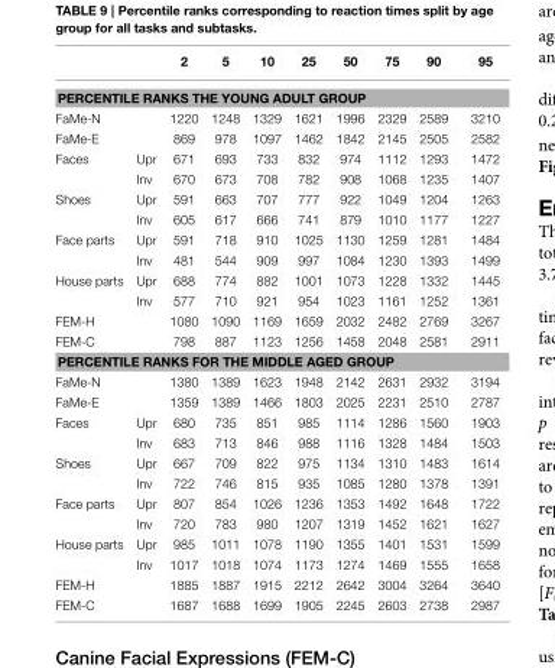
<table><thead><tr><td></td><td></td><td>2</td><td>5</td><td>10</td><td>25</td><td>50</td><td>75</td><td>90</td><td>95</td></tr></thead><tbody><tr><td colspan="10">PERCENTILE RANKS THE YOUNG ADULT GROUP</td></tr><tr><td>FaMe-N</td><td></td><td>1220</td><td>1248</td><td>1329</td><td>1621</td><td>1996</td><td>2329</td><td>2589</td><td>3210</td></tr><tr><td>FaMe-E</td><td></td><td>869</td><td>978</td><td>1097</td><td>1462</td><td>1842</td><td>2145</td><td>2505</td><td>2582</td></tr><tr><td rowspan="2">Faces</td><td>Upr</td><td>671</td><td>693</td><td>733</td><td>832</td><td>974</td><td>1112</td><td>1293</td><td>1472</td></tr><tr><td>Inv</td><td>670</td><td>673</td><td>708</td><td>782</td><td>908</td><td>1068</td><td>1235</td><td>1407</td></tr><tr><td rowspan="2">Shoes</td><td>Upr</td><td>591</td><td>663</td><td>707</td><td>777</td><td>922</td><td>1049</td><td>1204</td><td>1263</td></tr><tr><td>Inv</td><td>605</td><td>617</td><td>666</td><td>741</td><td>879</td><td>1010</td><td>1177</td><td>1227</td></tr><tr><td rowspan="2">Face parts</td><td>Upr</td><td>591</td><td>718</td><td>910</td><td>1025</td><td>1130</td><td>1259</td><td>1281</td><td>1484</td></tr><tr><td>Inv</td><td>481</td><td>544</td><td>909</td><td>997</td><td>1084</td><td>1230</td><td>1393</td><td>1499</td></tr><tr><td rowspan="2">House parts</td><td>Upr</td><td>688</td><td>774</td><td>882</td><td>1001</td><td>1073</td><td>1228</td><td>1332</td><td>1445</td></tr><tr><td>Inv</td><td>577</td><td>710</td><td>921</td><td>954</td><td>1023</td><td>1161</td><td>1252</td><td>1361</td></tr><tr><td>FEM-H</td><td></td><td>1080</td><td>1090</td><td>1169</td><td>1659</td><td>2032</td><td>2482</td><td>2769</td><td>3267</td></tr><tr><td>FEM-C</td><td></td><td>798</td><td>887</td><td>1123</td><td>1256</td><td>1458</td><td>2048</td><td>2581</td><td>2911</td></tr><tr><td colspan="10">PERCENTILE RANKS FOR THE MIDDLE AGED GROUP</td></tr><tr><td>FaMe-N</td><td></td><td>1380</td><td>1389</td><td>1623</td><td>1948</td><td>2142</td><td>2631</td><td>2932</td><td>3194</td></tr><tr><td>FaMe-E</td><td></td><td>1359</td><td>1389</td><td>1466</td><td>1803</td><td>2025</td><td>2231</td><td>2510</td><td>2787</td></tr><tr><td rowspan="2">Faces</td><td>Upr</td><td>680</td><td>735</td><td>851</td><td>985</td><td>1114</td><td>1286</td><td>1560</td><td>1903</td></tr><tr><td>Inv</td><td>683</td><td>713</td><td>846</td><td>988</td><td>1116</td><td>1328</td><td>1484</td><td>1503</td></tr><tr><td rowspan="2">Shoes</td><td>Upr</td><td>667</td><td>709</td><td>822</td><td>975</td><td>1134</td><td>1310</td><td>1483</td><td>1614</td></tr><tr><td>Inv</td><td>722</td><td>746</td><td>815</td><td>935</td><td>1085</td><td>1280</td><td>1378</td><td>1391</td></tr><tr><td rowspan="2">Face parts</td><td>Upr</td><td>807</td><td>854</td><td>1026</td><td>1236</td><td>1353</td><td>1492</td><td>1648</td><td>1722</td></tr><tr><td>Inv</td><td>720</td><td>783</td><td>980</td><td>1207</td><td>1319</td><td>1452</td><td>1621</td><td>1627</td></tr><tr><td rowspan="2">House parts</td><td>Upr</td><td>985</td><td>1011</td><td>1078</td><td>1190</td><td>1355</td><td>1401</td><td>1531</td><td>1599</td></tr><tr><td>Inv</td><td>1017</td><td>1018</td><td>1074</td><td>1173</td><td>1274</td><td>1469</td><td>1555</td><td>1658</td></tr><tr><td>FEM-H</td><td></td><td>1885</td><td>1887</td><td>1915</td><td>2212</td><td>2642</td><td>3004</td><td>3264</td><td>3640</td></tr><tr><td>FEM-C</td><td></td><td>1687</td><td>1688</td><td>1699</td><td>1905</td><td>2245</td><td>2603</td><td>2738</td><td>2987</td></tr></tbody></table>